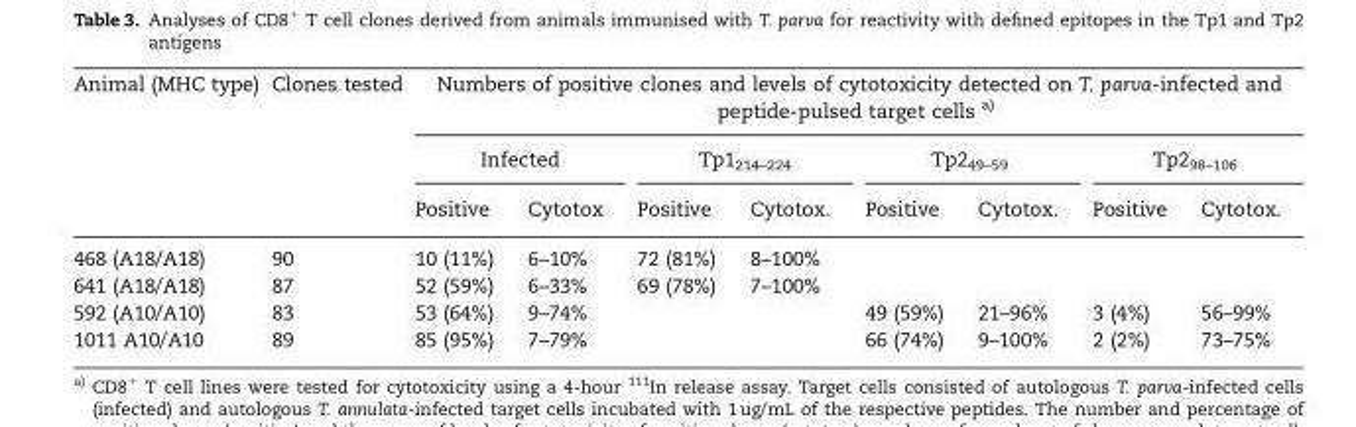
<table><thead><tr><td rowspan="3">Animal (MHC type)</td><td rowspan="3">Clones tested</td><td colspan="8">Numbers of positive clones and levels of cytotoxicity detected on T. parva-infected and peptide-pulsed target cells a)</td></tr><tr><td colspan="2">Infected</td><td colspan="2">Tp1<sub>214–224</sub></td><td colspan="2">Tp2<sub>49–59</sub></td><td colspan="2">Tp2<sub>98–106</sub></td></tr><tr><td>Positive</td><td>Cytotox</td><td>Positive</td><td>Cytotox.</td><td>Positive</td><td>Cytotox.</td><td>Positive</td><td>Cytotox.</td></tr></thead><tbody><tr><td>468 (A18/A18)</td><td>90</td><td>10 (11%)</td><td>6–10%</td><td>72 (81%)</td><td>8–100%</td><td></td><td></td><td></td><td></td></tr><tr><td>641 (A18/A18)</td><td>87</td><td>52 (59%)</td><td>6–33%</td><td>69 (78%)</td><td>7–100%</td><td></td><td></td><td></td><td></td></tr><tr><td>592 (A10/A10)</td><td>83</td><td>53 (64%)</td><td>9–74%</td><td></td><td></td><td>49 (59%)</td><td>21–96%</td><td>3 (4%)</td><td>56–99%</td></tr><tr><td>1011 A10/A10</td><td>89</td><td>85 (95%)</td><td>7–79%</td><td></td><td></td><td>66 (74%)</td><td>9–100%</td><td>2 (2%)</td><td>73–75%</td></tr></tbody></table>